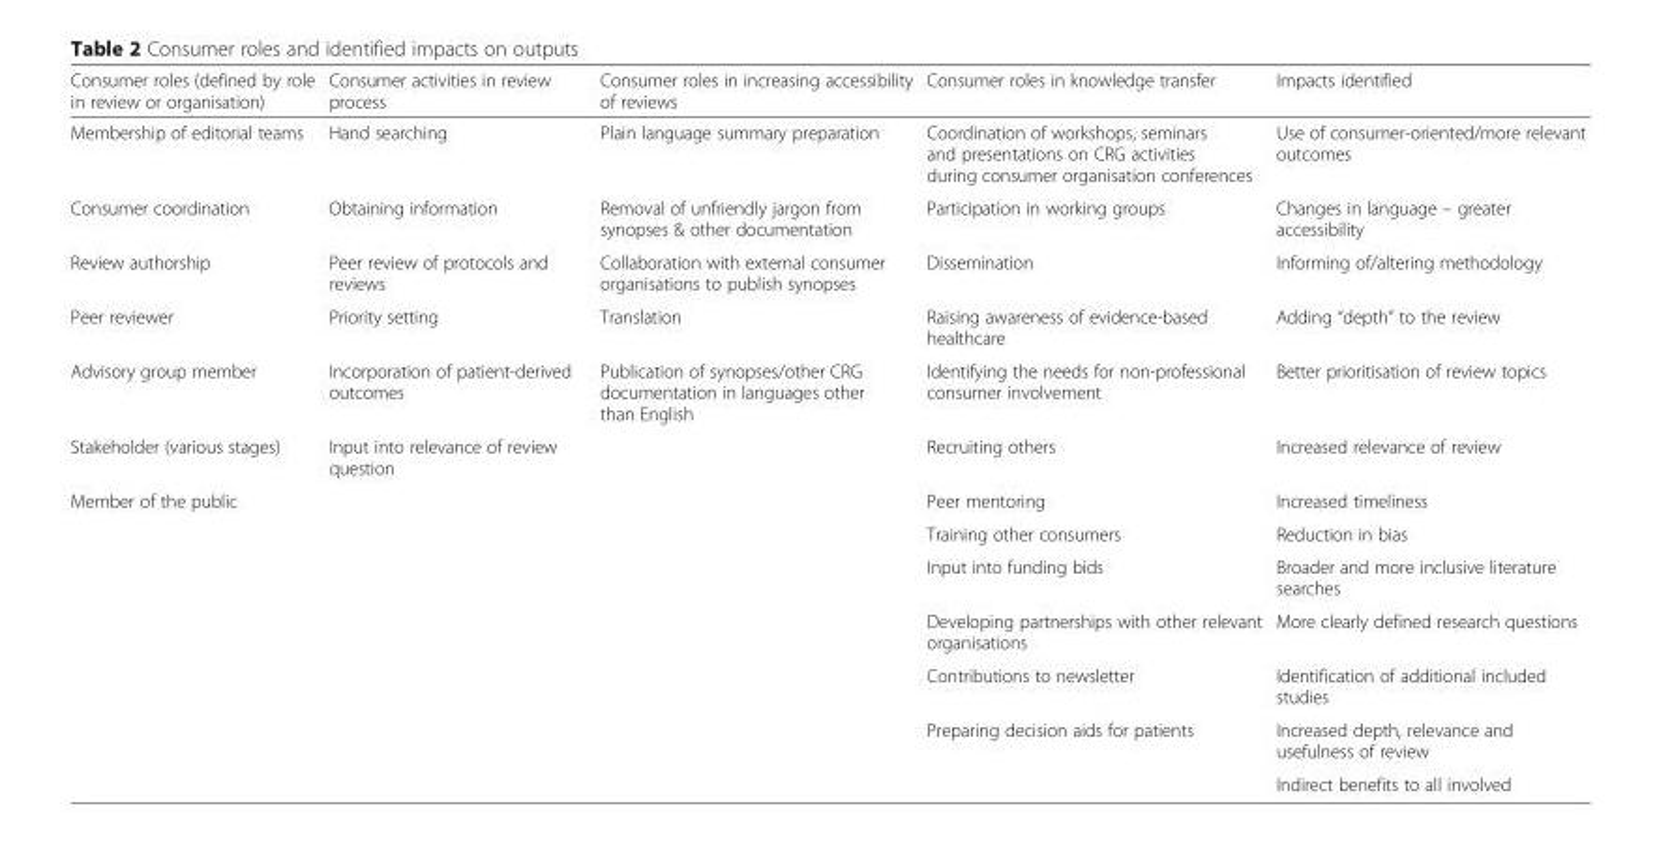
<table><thead><tr><td>Consumer roles (defined by role in review or organisation)</td><td>Consumer activities in review process</td><td>Consumer roles in increasing accessibility of reviews</td><td>Consumer roles in knowledge transfer</td><td>Impacts identified</td></tr></thead><tbody><tr><td>Membership of editorial teams</td><td>Hand searching</td><td>Plain language summary preparation</td><td>Coordination of workshops, seminars and presentations on CRG activities during consumer organisation conferences</td><td>Use of consumer-oriented/more relevant outcomes</td></tr><tr><td>Consumer coordination</td><td>Obtaining information</td><td>Removal of unfriendly jargon from synopses &amp; other documentation</td><td>Participation in working groups</td><td>Changes in language – greater accessibility</td></tr><tr><td>Review authorship</td><td>Peer review of protocols and reviews</td><td>Collaboration with external consumer organisations to publish synopses</td><td>Dissemination</td><td>Informing of/altering methodology</td></tr><tr><td>Peer reviewer</td><td>Priority setting</td><td>Translation</td><td>Raising awareness of evidence-based healthcare</td><td>Adding “depth” to the review</td></tr><tr><td>Advisory group member</td><td>Incorporation of patient-derived outcomes</td><td>Publication of synopses/other CRG documentation in languages other than English</td><td>Identifying the needs for non-professional consumer involvement</td><td>Better prioritisation of review topics</td></tr><tr><td>Stakeholder (various stages)</td><td>Input into relevance of review question</td><td></td><td>Recruiting others</td><td>Increased relevance of review</td></tr><tr><td rowspan="7">Member of the public</td><td></td><td></td><td>Peer mentoring</td><td>Increased timeliness</td></tr><tr><td></td><td></td><td>Training other consumers</td><td>Reduction in bias</td></tr><tr><td></td><td></td><td>Input into funding bids</td><td>Broader and more inclusive literature searches</td></tr><tr><td></td><td></td><td>Developing partnerships with other relevant organisations</td><td>More clearly defined research questions</td></tr><tr><td></td><td></td><td>Contributions to newsletter</td><td>Identification of additional included studies</td></tr><tr><td></td><td></td><td>Preparing decision aids for patients</td><td>Increased depth, relevance and usefulness of review</td></tr><tr><td></td><td></td><td></td><td>Indirect benefits to all involved</td></tr></tbody></table>